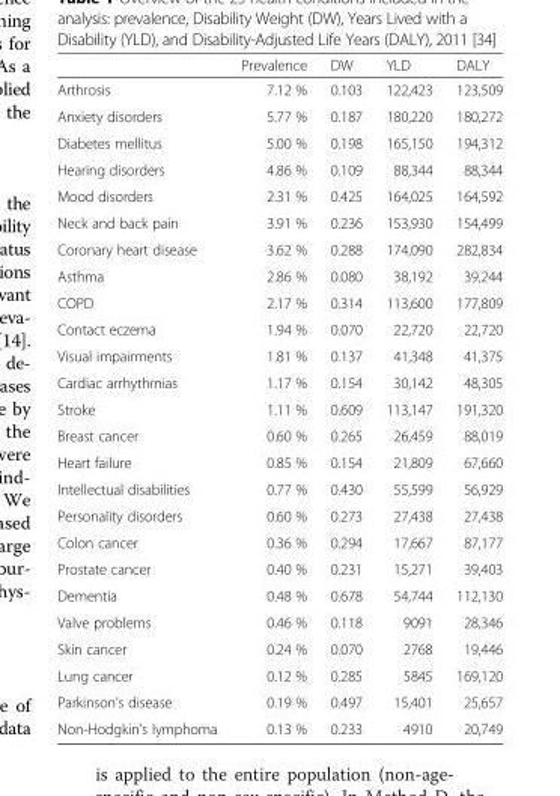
<table><thead><tr><td></td><td>Prevalence</td><td>DW</td><td>YLD</td><td>DALY</td></tr></thead><tbody><tr><td>Arthrosis</td><td>7.12 %</td><td>0.103</td><td>122,423</td><td>123,509</td></tr><tr><td>Anxiety disorders</td><td>5.77 %</td><td>0.187</td><td>180,220</td><td>180,272</td></tr><tr><td>Diabetes mellitus</td><td>5.00 %</td><td>0.198</td><td>165,150</td><td>194,312</td></tr><tr><td>Hearing disorders</td><td>4.86 %</td><td>0.109</td><td>88,344</td><td>88,344</td></tr><tr><td>Mood disorders</td><td>2.31 %</td><td>0.425</td><td>164,025</td><td>164,592</td></tr><tr><td>Neck and back pain</td><td>3.91 %</td><td>0.236</td><td>153,930</td><td>154,499</td></tr><tr><td>Coronary heart disease</td><td>3.62 %</td><td>0.288</td><td>174,090</td><td>282,834</td></tr><tr><td>Asthma</td><td>2.86 %</td><td>0.080</td><td>38,192</td><td>39,244</td></tr><tr><td>COPD</td><td>2.17 %</td><td>0.314</td><td>113,600</td><td>177,809</td></tr><tr><td>Contact eczema</td><td>1.94 %</td><td>0.070</td><td>22,720</td><td>22,720</td></tr><tr><td>Visual impairments</td><td>1.81 %</td><td>0.137</td><td>41,348</td><td>41,375</td></tr><tr><td>Cardiac arrhythmias</td><td>1.17 %</td><td>0.154</td><td>30,142</td><td>48,305</td></tr><tr><td>Stroke</td><td>1.11 %</td><td>0.609</td><td>113,147</td><td>191,320</td></tr><tr><td>Breast cancer</td><td>0.60 %</td><td>0.265</td><td>26,459</td><td>88,019</td></tr><tr><td>Heart failure</td><td>0.85 %</td><td>0.154</td><td>21,809</td><td>67,660</td></tr><tr><td>Intellectual disabilities</td><td>0.77 %</td><td>0.430</td><td>55,599</td><td>56,929</td></tr><tr><td>Personality disorders</td><td>0.60 %</td><td>0.273</td><td>27,438</td><td>27,438</td></tr><tr><td>Colon cancer</td><td>0.36 %</td><td>0.294</td><td>17,667</td><td>87,177</td></tr><tr><td>Prostate cancer</td><td>0.40 %</td><td>0.231</td><td>15,271</td><td>39,403</td></tr><tr><td>Dementia</td><td>0.48 %</td><td>0.678</td><td>54,744</td><td>112,130</td></tr><tr><td>Valve problems</td><td>0.46 %</td><td>0.118</td><td>9091</td><td>28,346</td></tr><tr><td>Skin cancer</td><td>0.24 %</td><td>0.070</td><td>2768</td><td>19,446</td></tr><tr><td>Lung cancer</td><td>0.12 %</td><td>0.285</td><td>5845</td><td>169,120</td></tr><tr><td>Parkinson’s disease</td><td>0.19 %</td><td>0.497</td><td>15,401</td><td>25,657</td></tr><tr><td>Non-Hodgkin’s lymphoma</td><td>0.13 %</td><td>0.233</td><td>4910</td><td>20,749</td></tr></tbody></table>